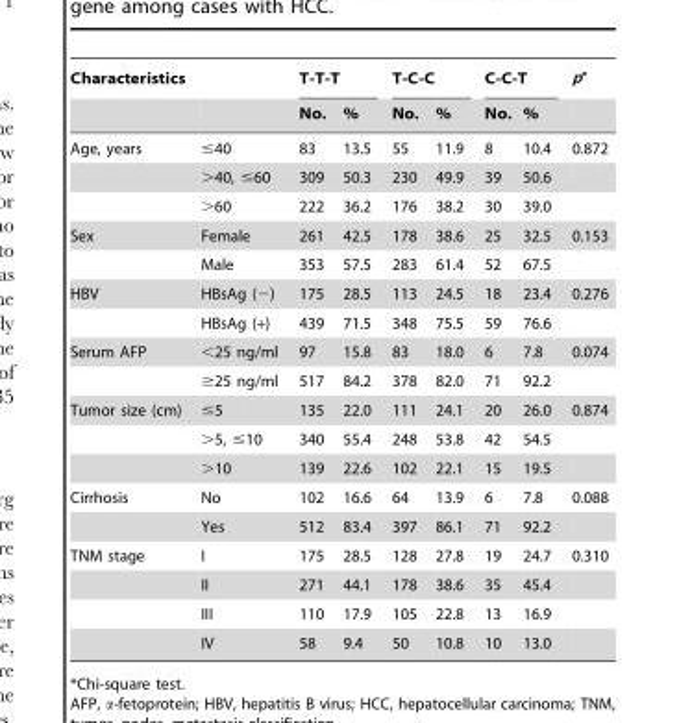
<table><thead><tr><td colspan="2">Characteristics</td><td colspan="2">T-T-T</td><td colspan="2">T-C-C</td><td colspan="2">C-C-T</td><td rowspan="2">p*</td></tr><tr><td></td><td></td><td>No.</td><td>%</td><td>No.</td><td>%</td><td>No.</td><td>%</td></tr></thead><tbody><tr><td rowspan="3">Age, years</td><td>≤40</td><td>83</td><td>13.5</td><td>55</td><td>11.9</td><td>8</td><td>10.4</td><td>0.872</td></tr><tr><td>&gt;40, ≤60</td><td>309</td><td>50.3</td><td>230</td><td>49.9</td><td>39</td><td>50.6</td><td></td></tr><tr><td>&gt;60</td><td>222</td><td>36.2</td><td>176</td><td>38.2</td><td>30</td><td>39.0</td><td></td></tr><tr><td rowspan="2">Sex</td><td>Female</td><td>261</td><td>42.5</td><td>178</td><td>38.6</td><td>25</td><td>32.5</td><td>0.153</td></tr><tr><td>Male</td><td>353</td><td>57.5</td><td>283</td><td>61.4</td><td>52</td><td>67.5</td><td></td></tr><tr><td rowspan="2">HBV</td><td>HBsAg (−)</td><td>175</td><td>28.5</td><td>113</td><td>24.5</td><td>18</td><td>23.4</td><td>0.276</td></tr><tr><td>HBsAg (+)</td><td>439</td><td>71.5</td><td>348</td><td>75.5</td><td>59</td><td>76.6</td><td></td></tr><tr><td rowspan="2">Serum AFP</td><td>&lt;25 ng/ml</td><td>97</td><td>15.8</td><td>83</td><td>18.0</td><td>6</td><td>7.8</td><td>0.074</td></tr><tr><td>≥25 ng/ml</td><td>517</td><td>84.2</td><td>378</td><td>82.0</td><td>71</td><td>92.2</td><td></td></tr><tr><td rowspan="3">Tumor size (cm)</td><td>≤5</td><td>135</td><td>22.0</td><td>111</td><td>24.1</td><td>20</td><td>26.0</td><td>0.874</td></tr><tr><td>&gt;5, ≤10</td><td>340</td><td>55.4</td><td>248</td><td>53.8</td><td>42</td><td>54.5</td><td></td></tr><tr><td>&gt;10</td><td>139</td><td>22.6</td><td>102</td><td>22.1</td><td>15</td><td>19.5</td><td></td></tr><tr><td rowspan="2">Cirrhosis</td><td>No</td><td>102</td><td>16.6</td><td>64</td><td>13.9</td><td>6</td><td>7.8</td><td>0.088</td></tr><tr><td>Yes</td><td>512</td><td>83.4</td><td>397</td><td>86.1</td><td>71</td><td>92.2</td><td></td></tr><tr><td rowspan="4">TNM stage</td><td>I</td><td>175</td><td>28.5</td><td>128</td><td>27.8</td><td>19</td><td>24.7</td><td>0.310</td></tr><tr><td>II</td><td>271</td><td>44.1</td><td>178</td><td>38.6</td><td>35</td><td>45.4</td><td></td></tr><tr><td>III</td><td>110</td><td>17.9</td><td>105</td><td>22.8</td><td>13</td><td>16.9</td><td></td></tr><tr><td>IV</td><td>58</td><td>9.4</td><td>50</td><td>10.8</td><td>10</td><td>13.0</td><td></td></tr></tbody></table>